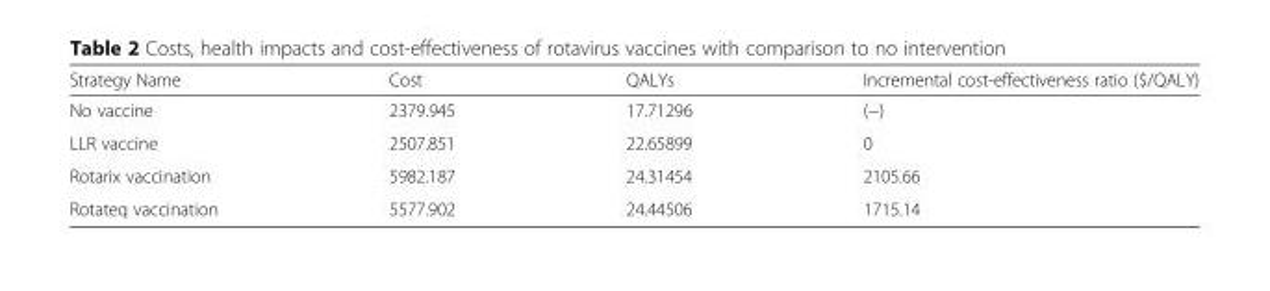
<table><thead><tr><td>Strategy Name</td><td>Cost</td><td>QALYs</td><td>Incremental cost-effectiveness ratio ($/QALY)</td></tr></thead><tbody><tr><td>No vaccine</td><td>2379.945</td><td>17.71296</td><td>(−)</td></tr><tr><td>LLR vaccine</td><td>2507.851</td><td>22.65899</td><td>0</td></tr><tr><td>Rotarix vaccination</td><td>5982.187</td><td>24.31454</td><td>2105.66</td></tr><tr><td>Rotateq vaccination</td><td>5577.902</td><td>24.44506</td><td>1715.14</td></tr></tbody></table>